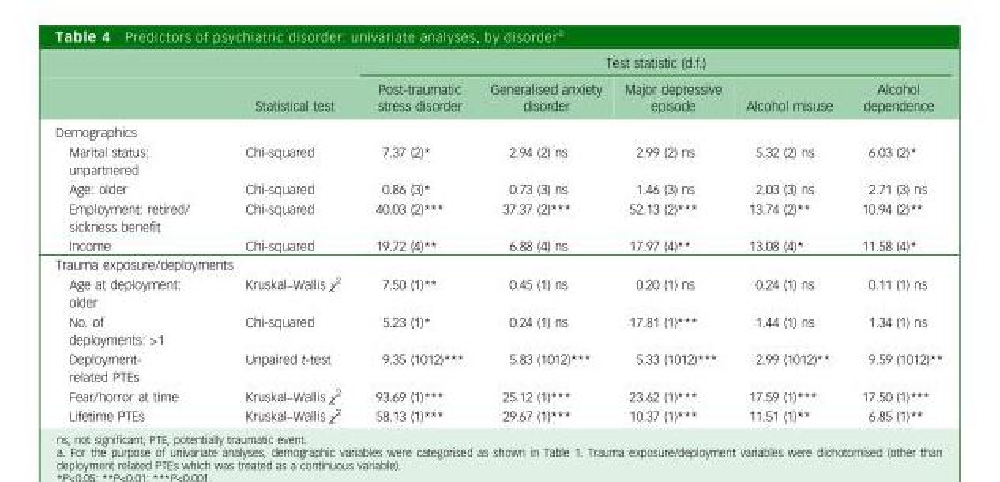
<table><thead><tr><td rowspan="2"></td><td rowspan="2">Statistical test</td><td colspan="5">Test statistic (d.f.)</td></tr><tr><td>Post-traumatic stress disorder</td><td>Generalised anxiety disorder</td><td>Major depressive episode</td><td>Alcohol misuse</td><td>Alcohol dependence</td></tr></thead><tbody><tr><td colspan="7">Demographics</td></tr><tr><td>Marital status: unpartnered</td><td>Chi-squared</td><td>7.37 (2)*</td><td>2.94 (2) ns</td><td>2.99 (2) ns</td><td>5.32 (2) ns</td><td>6.03 (2)*</td></tr><tr><td>Age: older</td><td>Chi-squared</td><td>0.86 (3)*</td><td>0.73 (3) ns</td><td>1.46 (3) ns</td><td>2.03 (3) ns</td><td>2.71 (3) ns</td></tr><tr><td>Employment: retired/ sickness benefit</td><td>Chi-squared</td><td>40.03 (2)***</td><td>37.37 (2)***</td><td>52.13 (2)***</td><td>13.74 (2)**</td><td>10.94 (2)**</td></tr><tr><td>Income</td><td>Chi-squared</td><td>19.72 (4)**</td><td>6.88 (4) ns</td><td>17.97 (4)**</td><td>13.08 (4)*</td><td>11.58 (4)*</td></tr><tr><td colspan="7">Trauma exposure/deployments</td></tr><tr><td>Age at deployment: older</td><td>Kruskal–Wallis χ<sup>2</sup></td><td>7.50 (1)**</td><td>0.45 (1) ns</td><td>0.20 (1) ns</td><td>0.24 (1) ns</td><td>0.11 (1) ns</td></tr><tr><td>No. of deployments: &gt;1</td><td>Chi-squared</td><td>5.23 (1)*</td><td>0.24 (1) ns</td><td>17.81 (1)***</td><td>1.44 (1) ns</td><td>1.34 (1) ns</td></tr><tr><td>Deployment- related PTEs</td><td>Unpaired t-test</td><td>9.35 (1012)***</td><td>5.83 (1012)***</td><td>5.33 (1012)***</td><td>2.99 (1012)**</td><td>9.59 (1012)**</td></tr><tr><td>Fear/horror at time</td><td>Kruskal–Wallis χ<sup>2</sup></td><td>93.69 (1)***</td><td>25.12 (1)***</td><td>23.62 (1)***</td><td>17.59 (1)***</td><td>17.50 (1)***</td></tr><tr><td>Lifetime PTEs</td><td>Kruskal–Wallis χ<sup>2</sup></td><td>58.13 (1)***</td><td>29.67 (1)***</td><td>10.37 (1)***</td><td>11.51 (1)**</td><td>6.85 (1)**</td></tr></tbody></table>